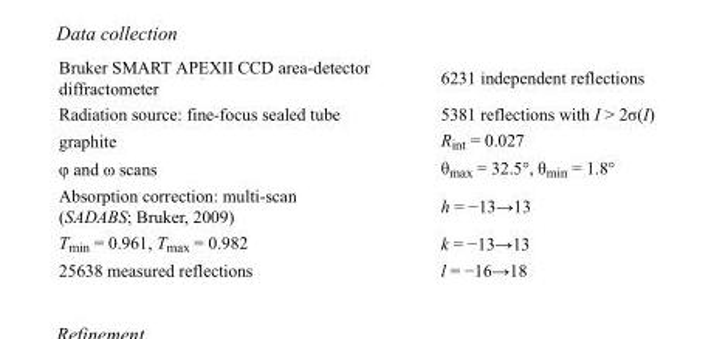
<table><tbody><tr><td>Bruker SMART APEXII CCD area-detector diffractometer</td><td>6231 independent reflections</td></tr><tr><td>Radiation source: fine-focus sealed tube</td><td>5381 reflections with I &gt; 2σ(I)</td></tr><tr><td>graphite</td><td>R<sub>int</sub> = 0.027</td></tr><tr><td>φ and ω scans</td><td>θ<sub>max</sub> = 32.5°, θ<sub>min</sub> = 1.8°</td></tr><tr><td>Absorption correction: multi-scan (SADABS; Bruker, 2009)</td><td>h = −13→13</td></tr><tr><td>T<sub>min</sub> = 0.961, T<sub>max</sub> = 0.982</td><td>k = −13→13</td></tr><tr><td>25638 measured reflections</td><td>l = −16→18</td></tr></tbody></table>